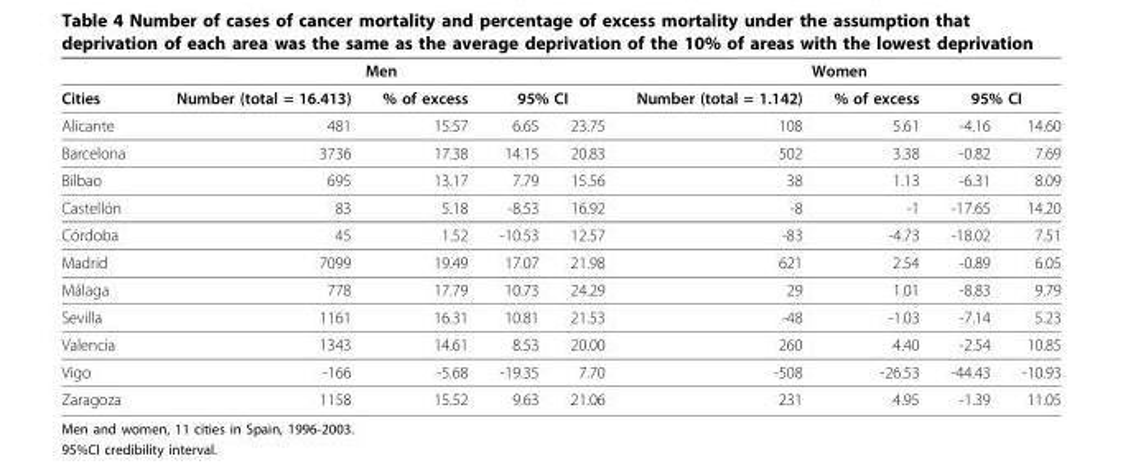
<table><thead><tr><td rowspan="3">Cities Alicante</td><td colspan="4">Men</td><td colspan="4">Women</td></tr><tr><td rowspan="2">Number (total = 16.413) 481</td><td rowspan="2">% of excess 15.57</td><td colspan="2">95% CI</td><td rowspan="2">Number (total = 1.142) 108</td><td rowspan="2">% of excess 5.61</td><td colspan="2">95% CI</td></tr><tr><td>6.65</td><td>23.75</td><td>-4.16</td><td>14.60</td></tr></thead><tbody><tr><td>Barcelona</td><td>3736</td><td>17.38</td><td>14.15</td><td>20.83</td><td>502</td><td>3.38</td><td>-0.82</td><td>7.69</td></tr><tr><td>Bilbao</td><td>695</td><td>13.17</td><td>7.79</td><td>15.56</td><td>38</td><td>1.13</td><td>-6.31</td><td>8.09</td></tr><tr><td>Castellón</td><td>83</td><td>5.18</td><td>-8.53</td><td>16.92</td><td>-8</td><td>-1</td><td>-17.65</td><td>14.20</td></tr><tr><td>Córdoba</td><td>45</td><td>1.52</td><td>-10.53</td><td>12.57</td><td>-83</td><td>-4.73</td><td>-18.02</td><td>7.51</td></tr><tr><td>Madrid</td><td>7099</td><td>19.49</td><td>17.07</td><td>21.98</td><td>621</td><td>2.54</td><td>-0.89</td><td>6.05</td></tr><tr><td>Málaga</td><td>778</td><td>17.79</td><td>10.73</td><td>24.29</td><td>29</td><td>1.01</td><td>-8.83</td><td>9.79</td></tr><tr><td>Sevilla</td><td>1161</td><td>16.31</td><td>10.81</td><td>21.53</td><td>-48</td><td>-1.03</td><td>-7.14</td><td>5.23</td></tr><tr><td>Valencia</td><td>1343</td><td>14.61</td><td>8.53</td><td>20.00</td><td>260</td><td>4.40</td><td>-2.54</td><td>10.85</td></tr><tr><td>Vigo</td><td>-166</td><td>-5.68</td><td>-19.35</td><td>7.70</td><td>-508</td><td>-26.53</td><td>-44.43</td><td>-10.93</td></tr><tr><td>Zaragoza</td><td>1158</td><td>15.52</td><td>9.63</td><td>21.06</td><td>231</td><td>4.95</td><td>-1.39</td><td>11.05</td></tr></tbody></table>